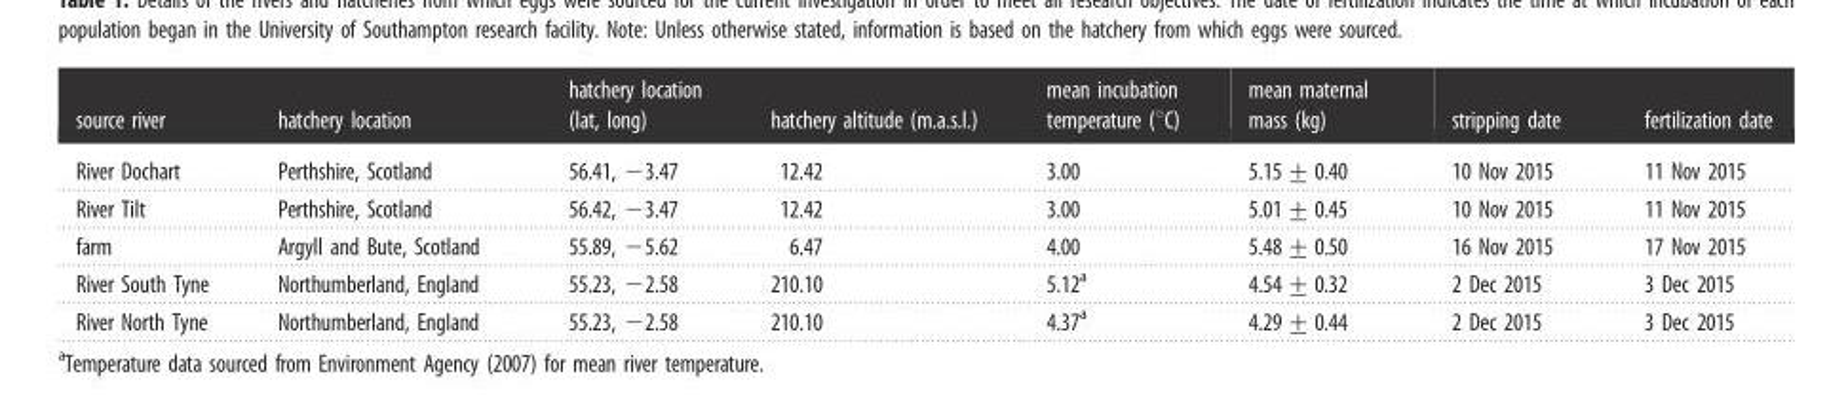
<table><thead><tr><td>source river</td><td>hatchery location</td><td>hatchery location (lat, long)</td><td>hatchery altitude (m.a.s.l.)</td><td>mean incubation temperature (°C)</td><td>mean maternal mass (kg)</td><td>stripping date</td><td>fertilization date</td></tr></thead><tbody><tr><td>River Dochart</td><td>Perthshire, Scotland</td><td>56.41, −3.47</td><td>12.42</td><td>3.00</td><td>5.15 + 0.40</td><td>10 Nov 2015</td><td>11 Nov 2015</td></tr><tr><td>River Tilt</td><td>Perthshire, Scotland</td><td>56.42, −3.47</td><td>12.42</td><td>3.00</td><td>5.01 + 0.45</td><td>10 Nov 2015</td><td>11 Nov 2015</td></tr><tr><td>farm</td><td>Argyll and Bute, Scotland</td><td>55.89, −5.62</td><td>6.47</td><td>4.00</td><td>5.48 + 0.50</td><td>16 Nov 2015</td><td>17 Nov 2015</td></tr><tr><td>River South Tyne</td><td>Northumberland, England</td><td>55.23, −2.58</td><td>210.10</td><td>5.12<sup>a</sup></td><td>4.54 + 0.32</td><td>2 Dec 2015</td><td>3 Dec 2015</td></tr><tr><td>River North Tyne</td><td>Northumberland, England</td><td>55.23, −2.58</td><td>210.10</td><td>4.37<sup>a</sup></td><td>4.29 + 0.44</td><td>2 Dec 2015</td><td>3 Dec 2015</td></tr></tbody></table>